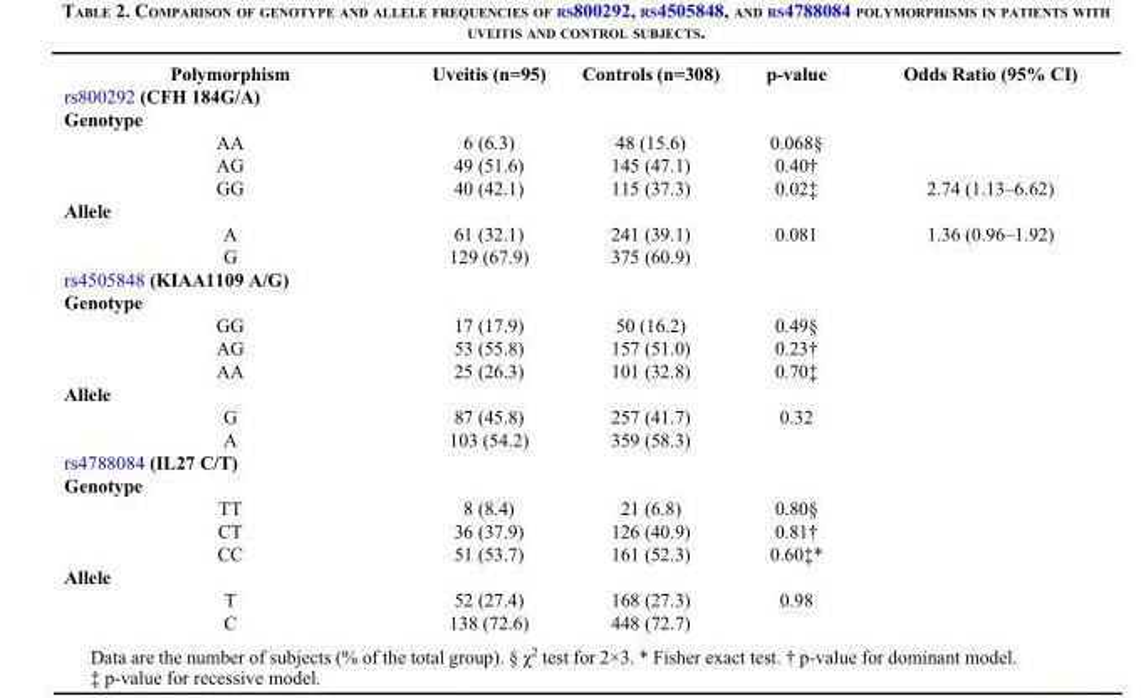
<table><thead><tr><td>Polymorphism</td><td>Uveitis (n=95)</td><td>Controls (n=308)</td><td>p-value</td><td>Odds Ratio (95% CI)</td></tr></thead><tbody><tr><td colspan="5">rs800292 (CFH 184G/A)</td></tr><tr><td colspan="5">Genotype</td></tr><tr><td>AA</td><td>6 (6.3)</td><td>48 (15.6)</td><td>0.068§</td><td></td></tr><tr><td>AG</td><td>49 (51.6)</td><td>145 (47.1)</td><td>0.40†</td><td></td></tr><tr><td>GG</td><td>40 (42.1)</td><td>115 (37.3)</td><td>0.02‡</td><td>2.74 (1.13–6.62)</td></tr><tr><td colspan="5">Allele</td></tr><tr><td>A</td><td>61 (32.1)</td><td>241 (39.1)</td><td>0.081</td><td>1.36 (0.96–1.92)</td></tr><tr><td>G</td><td>129 (67.9)</td><td>375 (60.9)</td><td></td><td></td></tr><tr><td colspan="5">rs4505848 (KIAA1109 A/G)</td></tr><tr><td colspan="5">Genotype</td></tr><tr><td>GG</td><td>17 (17.9)</td><td>50 (16.2)</td><td>0.49§</td><td></td></tr><tr><td>AG</td><td>53 (55.8)</td><td>157 (51.0)</td><td>0.23†</td><td></td></tr><tr><td>AA</td><td>25 (26.3)</td><td>101 (32.8)</td><td>0.70‡</td><td></td></tr><tr><td colspan="5">Allele</td></tr><tr><td>G</td><td>87 (45.8)</td><td>257 (41.7)</td><td>0.32</td><td></td></tr><tr><td>A</td><td>103 (54.2)</td><td>359 (58.3)</td><td></td><td></td></tr><tr><td colspan="5">rs4788084 (IL27 C/T)</td></tr><tr><td colspan="5">Genotype</td></tr><tr><td>TT</td><td>8 (8.4)</td><td>21 (6.8)</td><td>0.80§</td><td></td></tr><tr><td>CT</td><td>36 (37.9)</td><td>126 (40.9)</td><td>0.81†</td><td></td></tr><tr><td>CC</td><td>51 (53.7)</td><td>161 (52.3)</td><td>0.60‡*</td><td></td></tr><tr><td colspan="5">Allele</td></tr><tr><td>T</td><td>52 (27.4)</td><td>168 (27.3)</td><td>0.98</td><td></td></tr><tr><td>C</td><td>138 (72.6)</td><td>448 (72.7)</td><td></td><td></td></tr></tbody></table>